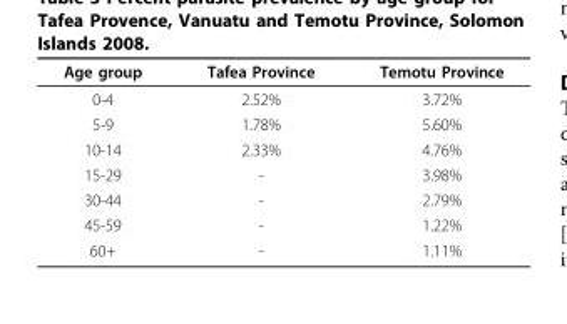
<table><thead><tr><td>Age group</td><td>Tafea Province</td><td>Temotu Province</td></tr></thead><tbody><tr><td>0-4</td><td>2.52%</td><td>3.72%</td></tr><tr><td>5-9</td><td>1.78%</td><td>5.60%</td></tr><tr><td>10-14</td><td>2.33%</td><td>4.76%</td></tr><tr><td>15-29</td><td>-</td><td>3.98%</td></tr><tr><td>30-44</td><td>-</td><td>2.79%</td></tr><tr><td>45-59</td><td>-</td><td>1.22%</td></tr><tr><td>60+</td><td>-</td><td>1.11%</td></tr></tbody></table>